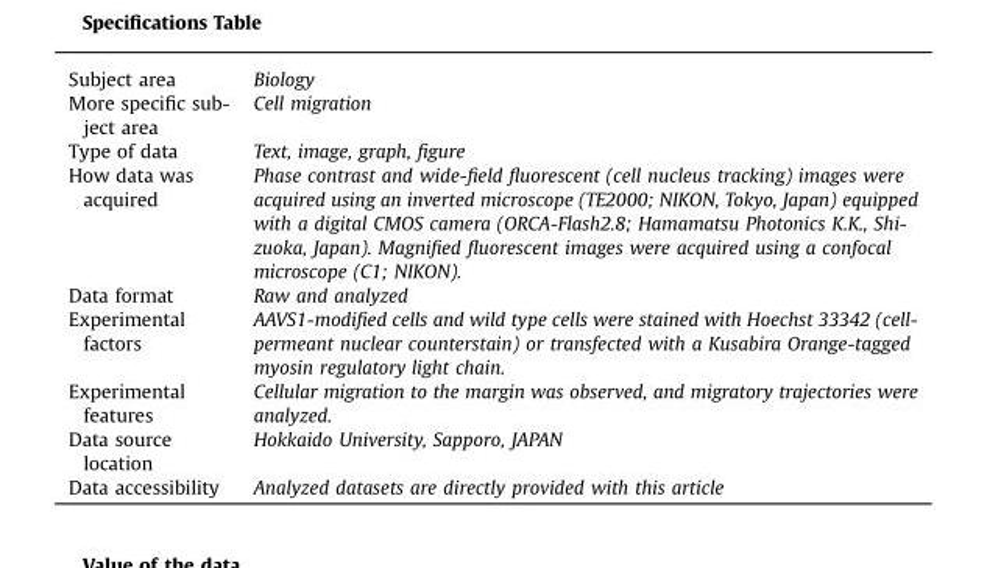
<table><tbody><tr><td>Subject area</td><td>Biology</td></tr><tr><td>More specific sub- ject area</td><td>Cell migration</td></tr><tr><td>Type of data</td><td>Text, image, graph, figure</td></tr><tr><td>How data was acquired</td><td>Phase contrast and wide-field fluorescent (cell nucleus tracking) images were acquired using an inverted microscope (TE2000; NIKON, Tokyo, Japan) equipped with a digital CMOS camera (ORCA-Flash2.8; Hamamatsu Photonics K.K., Shi- zuoka, Japan). Magnified fluorescent images were acquired using a confocal microscope (C1; NIKON).</td></tr><tr><td>Data format</td><td>Raw and analyzed</td></tr><tr><td>Experimental factors</td><td>AAVS1-modified cells and wild type cells were stained with Hoechst 33342 (cell- permeant nuclear counterstain) or transfected with a Kusabira Orange-tagged myosin regulatory light chain.</td></tr><tr><td>Experimental features</td><td>Cellular migration to the margin was observed, and migratory trajectories were analyzed.</td></tr><tr><td>Data source location</td><td>Hokkaido University, Sapporo, JAPAN</td></tr><tr><td>Data accessibility</td><td>Analyzed datasets are directly provided with this article</td></tr></tbody></table>